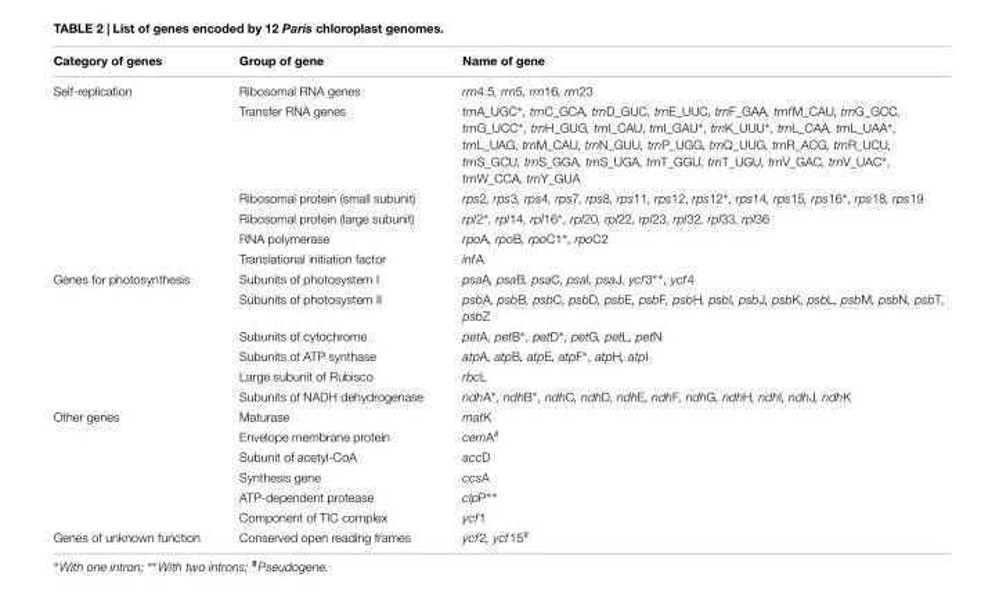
<table><thead><tr><td>Category of genes</td><td>Group of gene</td><td>Name of gene</td></tr></thead><tbody><tr><td rowspan="6">Self-replication</td><td>Ribosomal RNA genes</td><td>rrn4.5, rrn5, rrn16, rrn23</td></tr><tr><td>Transfer RNA genes</td><td>trnA_UGC∗, trnC_GCA, trnD_GUC, trnE_UUC, trnF_GAA, trnfM_CAU, trnG_GCC, trnG_UCC∗, trnH_GUG, trnI_CAU, trnI_GAU∗, trnK_UUU∗, trnL_CAA, trnL_UAA∗, trnL_UAG, trnM_CAU, trnN_GUU, trnP_UGG, trnQ_UUG, trnR_ACG, trnR_UCU, trnS_GCU, trnS_GGA, trnS_UGA, trnT_GGU, trnT_UGU, trnV_GAC, trnV_UAC∗, trnW_CCA, trnY_GUA</td></tr><tr><td>Ribosomal protein (small subunit)</td><td>rps2, rps3, rps4, rps7, rps8, rps11, rps12, rps12∗, rps14, rps15, rps16∗, rps18, rps19</td></tr><tr><td>Ribosomal protein (large subunit)</td><td>rpl2∗, rpl14, rpl16∗, rpl20, rpl22, rpl23, rpl32, rpl33, rpl36</td></tr><tr><td>RNA polymerase</td><td>rpoA, rpoB, rpoC1∗, rpoC2</td></tr><tr><td>Translational initiation factor</td><td>infA</td></tr><tr><td rowspan="6">Genes for photosynthesis</td><td>Subunits of photosystem I</td><td>psaA, psaB, psaC, psaI, psaJ, ycf3∗∗, ycf4</td></tr><tr><td>Subunits of photosystem II</td><td>psbA, psbB, psbC, psbD, psbE, psbF, psbH, psbI, psbJ, psbK, psbL, psbM, psbN, psbT, psbZ</td></tr><tr><td>Subunits of cytochrome</td><td>petA, petB∗, petD∗, petG, petL, petN</td></tr><tr><td>Subunits of ATP synthase</td><td>atpA, atpB, atpE, atpF∗, atpH, atpI</td></tr><tr><td>Large subunit of Rubisco</td><td>rbcL</td></tr><tr><td>Subunits of NADH dehydrogenase</td><td>ndhA∗, ndhB∗, ndhC, ndhD, ndhE, ndhF, ndhG, ndhH, ndhI, ndhJ, ndhK</td></tr><tr><td rowspan="6">Other genes</td><td>Maturase</td><td>matK</td></tr><tr><td>Envelope membrane protein</td><td>cemA<sup>#</sup></td></tr><tr><td>Subunit of acetyl-CoA</td><td>accD</td></tr><tr><td>Synthesis gene</td><td>ccsA</td></tr><tr><td>ATP-dependent protease</td><td>clpP∗∗</td></tr><tr><td>Component of TIC complex</td><td>ycf1</td></tr><tr><td>Genes of unknown function</td><td>Conserved open reading frames</td><td>ycf2, ycf15<sup>#</sup></td></tr></tbody></table>